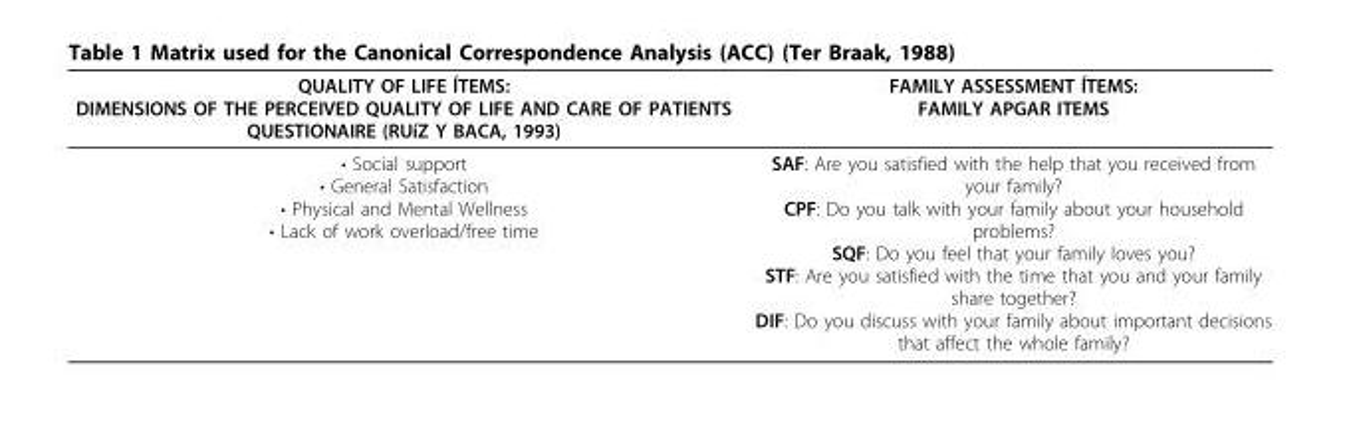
<table><thead><tr><td>QUALITY OF LIFE ÍTEMS: DIMENSIONS OF THE PERCEIVED QUALITY OF LIFE AND CARE OF PATIENTS QUESTIONAIRE (RUíZ Y BACA, 1993)</td><td>FAMILY ASSESSMENT ÍTEMS: FAMILY APGAR ITEMS</td></tr></thead><tbody><tr><td>• Social support • General Satisfaction • Physical and Mental Wellness • Lack of work overload/free time</td><td>SAF: Are you satisfied with the help that you received from your family? CPF: Do you talk with your family about your household problems? SQF: Do you feel that your family loves you? STF: Are you satisfied with the time that you and your family share together? DIF: Do you discuss with your family about important decisions that affect the whole family?</td></tr></tbody></table>